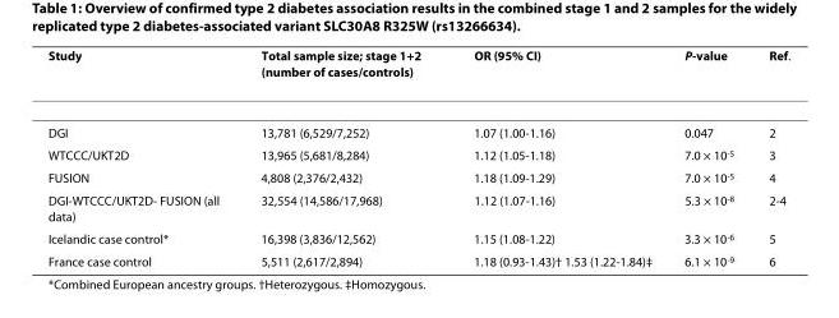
<table><thead><tr><td>Study</td><td>Total sample size; stage 1+2 (number of cases/controls)</td><td>OR (95% CI)</td><td>P-value</td><td>Ref.</td></tr></thead><tbody><tr><td>DGI</td><td>13,781 (6,529/7,252)</td><td>1.07 (1.00-1.16)</td><td>0.047</td><td>2</td></tr><tr><td>WTCCC/UKT2D</td><td>13,965 (5,681/8,284)</td><td>1.12 (1.05-1.18)</td><td>7.0 × 10<sup>-5</sup></td><td>3</td></tr><tr><td>FUSION</td><td>4,808 (2,376/2,432)</td><td>1.18 (1.09-1.29)</td><td>7.0 × 10<sup>-5</sup></td><td>4</td></tr><tr><td>DGI-WTCCC/UKT2D- FUSION (all data)</td><td>32,554 (14,586/17,968)</td><td>1.12 (1.07-1.16)</td><td>5.3 × 10<sup>-8</sup></td><td>2-4</td></tr><tr><td>Icelandic case control*</td><td>16,398 (3,836/12,562)</td><td>1.15 (1.08-1.22)</td><td>3.3 × 10<sup>-6</sup></td><td>5</td></tr><tr><td>France case control</td><td>5,511 (2,617/2,894)</td><td>1.18 (0.93-1.43)† 1.53 (1.22-1.84)‡</td><td>6.1 × 10<sup>-9</sup></td><td>6</td></tr></tbody></table>